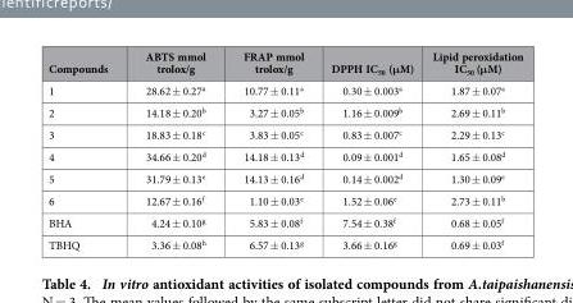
<table><thead><tr><td>Compounds</td><td>ABTS mmol trolox/g</td><td>FRAP mmol trolox/g</td><td>DPPH IC<sub>50</sub> (μM)</td><td>Lipid peroxidation IC<sub>50</sub> (μM)</td></tr></thead><tbody><tr><td>1</td><td>28.62 ± 0.27<sup>a</sup></td><td>10.77 ± 0.11<sup>a</sup></td><td>0.30 ± 0.003<sup>a</sup></td><td>1.87 ± 0.07<sup>a</sup></td></tr><tr><td>2</td><td>14.18 ± 0.20<sup>b</sup></td><td>3.27 ± 0.05<sup>b</sup></td><td>1.16 ± 0.009<sup>b</sup></td><td>2.69 ± 0.11<sup>b</sup></td></tr><tr><td>3</td><td>18.83 ± 0.18<sup>c</sup></td><td>3.83 ± 0.05<sup>c</sup></td><td>0.83 ± 0.007<sup>c</sup></td><td>2.29 ± 0.13<sup>c</sup></td></tr><tr><td>4</td><td>34.66 ± 0.20<sup>d</sup></td><td>14.18 ± 0.13<sup>d</sup></td><td>0.09 ± 0.001<sup>d</sup></td><td>1.65 ± 0.08<sup>d</sup></td></tr><tr><td>5</td><td>31.79 ± 0.13<sup>e</sup></td><td>14.13 ± 0.16<sup>d</sup></td><td>0.14 ± 0.002<sup>d</sup></td><td>1.30 ± 0.09<sup>e</sup></td></tr><tr><td>6</td><td>12.67 ± 0.16<sup>f</sup></td><td>1.10 ± 0.03<sup>e</sup></td><td>1.52 ± 0.06<sup>e</sup></td><td>2.73 ± 0.11<sup>b</sup></td></tr><tr><td>BHA</td><td>4.24 ± 0.10<sup>g</sup></td><td>5.83 ± 0.08<sup>f</sup></td><td>7.54 ± 0.38<sup>f</sup></td><td>0.68 ± 0.05<sup>f</sup></td></tr><tr><td>TBHQ</td><td>3.36 ± 0.08<sup>h</sup></td><td>6.57 ± 0.13<sup>g</sup></td><td>3.66 ± 0.16<sup>g</sup></td><td>0.69 ± 0.03<sup>f</sup></td></tr></tbody></table>